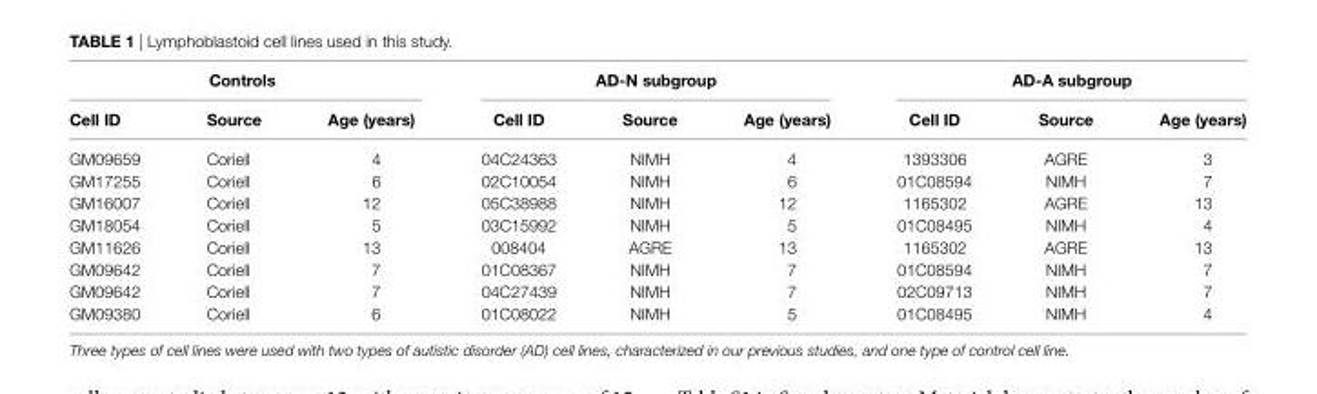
<table><thead><tr><td colspan="3">controls</td><td colspan="3">aD-n subgroup</td><td colspan="3">aD-a subgroup</td></tr><tr><td>cell iD</td><td>source</td><td>age (years)</td><td>cell iD</td><td>source</td><td>age (years)</td><td>cell iD</td><td>source</td><td>age (years)</td></tr></thead><tbody><tr><td>GM09659</td><td>Coriell</td><td>4</td><td>04C24363</td><td>NIMH</td><td>4</td><td>1393306</td><td>AGRE</td><td>3</td></tr><tr><td>GM17255</td><td>Coriell</td><td>6</td><td>02C10054</td><td>NIMH</td><td>6</td><td>01C08594</td><td>NIMH</td><td>7</td></tr><tr><td>GM16007</td><td>Coriell</td><td>12</td><td>05C38988</td><td>NIMH</td><td>12</td><td>1165302</td><td>AGRE</td><td>13</td></tr><tr><td>GM18054</td><td>Coriell</td><td>5</td><td>03C15992</td><td>NIMH</td><td>5</td><td>01C08495</td><td>NIMH</td><td>4</td></tr><tr><td>GM11626</td><td>Coriell</td><td>13</td><td>008404</td><td>AGRE</td><td>13</td><td>1165302</td><td>AGRE</td><td>13</td></tr><tr><td>GM09642</td><td>Coriell</td><td>7</td><td>01C08367</td><td>NIMH</td><td>7</td><td>01C08594</td><td>NIMH</td><td>7</td></tr><tr><td>GM09642</td><td>Coriell</td><td>7</td><td>04C27439</td><td>NIMH</td><td>7</td><td>02C09713</td><td>NIMH</td><td>7</td></tr><tr><td>GM09380</td><td>Coriell</td><td>6</td><td>01C08022</td><td>NIMH</td><td>5</td><td>01C08495</td><td>NIMH</td><td>4</td></tr></tbody></table>